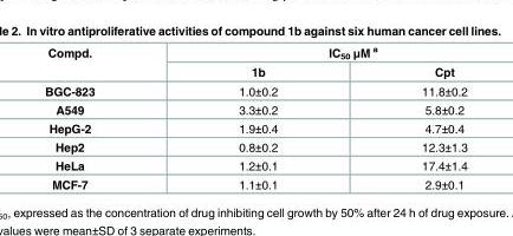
<table><thead><tr><td rowspan="2">Compd.</td><td colspan="2">IC<sub>50</sub> μM <sup>a</sup></td></tr><tr><td>1b</td><td>Cpt</td></tr></thead><tbody><tr><td>BGC-823</td><td>1.0±0.2</td><td>11.8±0.2</td></tr><tr><td>A549</td><td>3.3±0.2</td><td>5.8±0.2</td></tr><tr><td>HepG-2</td><td>1.9±0.4</td><td>4.7±0.4</td></tr><tr><td>Hep2</td><td>0.8±0.2</td><td>12.3±1.3</td></tr><tr><td>HeLa</td><td>1.2±0.1</td><td>17.4±1.4</td></tr><tr><td>MCF-7</td><td>1.1±0.1</td><td>2.9±0.1</td></tr></tbody></table>